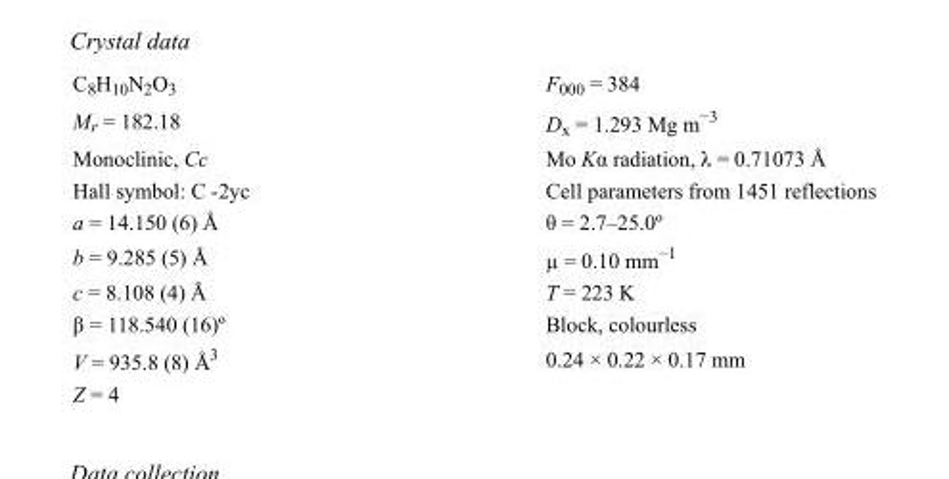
<table><tbody><tr><td>C<sub>8</sub>H<sub>10</sub>N<sub>2</sub>O<sub>3</sub></td><td>F000 = 384</td></tr><tr><td>M<sub>r</sub> = 182.18</td><td>D<sub>x</sub> = 1.293 Mg m<sup>−3</sup></td></tr><tr><td>Monoclinic, Cc</td><td>Mo Kα radiation, λ = 0.71073 Å</td></tr><tr><td>Hall symbol: C -2yc</td><td>Cell parameters from 1451 reflections</td></tr><tr><td>a = 14.150 (6) Å</td><td>θ = 2.7–25.0º</td></tr><tr><td>b = 9.285 (5) Å</td><td>µ = 0.10 mm<sup>−1</sup></td></tr><tr><td>c = 8.108 (4) Å</td><td>T = 223 K</td></tr><tr><td>β = 118.540 (16)º</td><td>Block, colourless</td></tr><tr><td>V = 935.8 (8) Å<sup>3</sup></td><td>0.24 × 0.22 × 0.17 mm</td></tr><tr><td>Z = 4</td><td></td></tr></tbody></table>